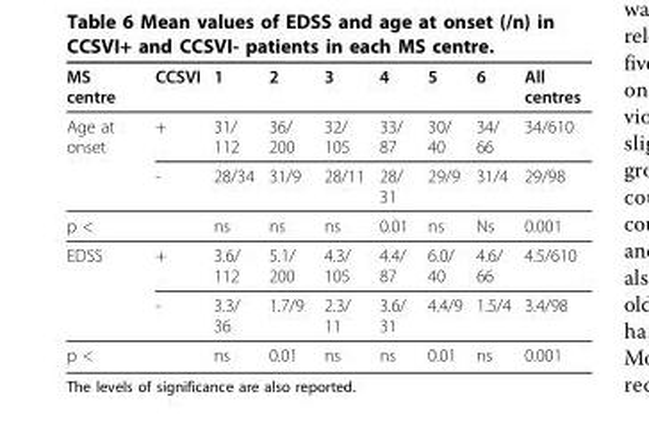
<table><thead><tr><td>MS centre</td><td>CCSVI</td><td>1</td><td>2</td><td>3</td><td>4</td><td>5</td><td>6</td><td>All centres</td></tr></thead><tbody><tr><td rowspan="2">Age at onset</td><td>+</td><td>31/ 112</td><td>36/ 200</td><td>32/ 105</td><td>33/ 87</td><td>30/ 40</td><td>34/ 66</td><td>34/610</td></tr><tr><td>-</td><td>28/34</td><td>31/9</td><td>28/11</td><td>28/ 31</td><td>29/9</td><td>31/4</td><td>29/98</td></tr><tr><td>p &lt;</td><td></td><td>ns</td><td>ns</td><td>ns</td><td>0.01</td><td>ns</td><td>Ns</td><td>0.001</td></tr><tr><td rowspan="2">EDSS</td><td>+</td><td>3.6/ 112</td><td>5.1/ 200</td><td>4.3/ 105</td><td>4.4/ 87</td><td>6.0/ 40</td><td>4.6/ 66</td><td>4.5/610</td></tr><tr><td>-</td><td>3.3/ 36</td><td>1.7/9</td><td>2.3/ 11</td><td>3.6/ 31</td><td>4.4/9</td><td>1.5/4</td><td>3.4/98</td></tr><tr><td>p &lt;</td><td></td><td>ns</td><td>0.01</td><td>ns</td><td>ns</td><td>0.01</td><td>ns</td><td>0.001</td></tr></tbody></table>